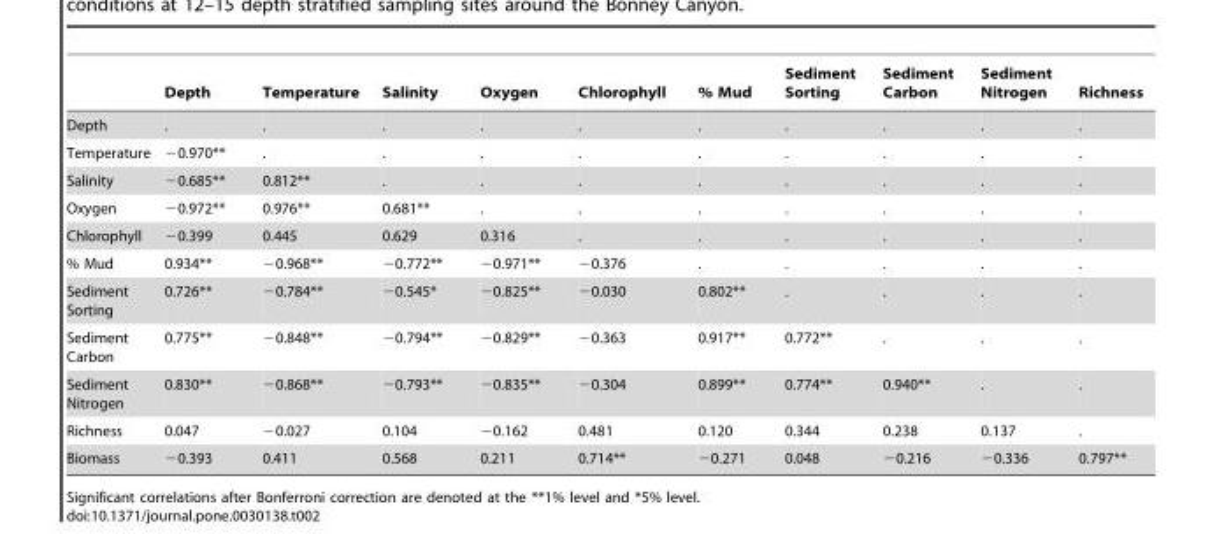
<table><thead><tr><td></td><td>Depth</td><td>Temperature</td><td>Salinity</td><td>Oxygen</td><td>Chlorophyll</td><td>% Mud</td><td>Sediment Sorting</td><td>Sediment Carbon</td><td>Sediment Nitrogen</td><td>Richness</td></tr></thead><tbody><tr><td>Depth</td><td>.</td><td>.</td><td>.</td><td>.</td><td>.</td><td>.</td><td>.</td><td>.</td><td>.</td><td>.</td></tr><tr><td>Temperature</td><td>−0.970**</td><td>.</td><td>.</td><td>.</td><td>.</td><td>.</td><td>.</td><td>.</td><td>.</td><td>.</td></tr><tr><td>Salinity</td><td>−0.685**</td><td>0.812**</td><td>.</td><td>.</td><td>.</td><td>.</td><td>.</td><td>.</td><td>.</td><td>.</td></tr><tr><td>Oxygen</td><td>−0.972**</td><td>0.976**</td><td>0.681**</td><td>.</td><td>.</td><td>.</td><td>.</td><td>.</td><td>.</td><td>.</td></tr><tr><td>Chlorophyll</td><td>−0.399</td><td>0.445</td><td>0.629</td><td>0.316</td><td>.</td><td>.</td><td>.</td><td>.</td><td>.</td><td>.</td></tr><tr><td>% Mud</td><td>0.934**</td><td>−0.968**</td><td>−0.772**</td><td>−0.971**</td><td>−0.376</td><td>.</td><td>.</td><td>.</td><td>.</td><td>.</td></tr><tr><td>Sediment Sorting</td><td>0.726**</td><td>−0.784**</td><td>−0.545*</td><td>−0.825**</td><td>−0.030</td><td>0.802**</td><td>.</td><td>.</td><td>.</td><td>.</td></tr><tr><td>Sediment Carbon</td><td>0.775**</td><td>−0.848**</td><td>−0.794**</td><td>−0.829**</td><td>−0.363</td><td>0.917**</td><td>0.772**</td><td>.</td><td>.</td><td>.</td></tr><tr><td>Sediment Nitrogen</td><td>0.830**</td><td>−0.868**</td><td>−0.793**</td><td>−0.835**</td><td>−0.304</td><td>0.899**</td><td>0.774**</td><td>0.940**</td><td>.</td><td>.</td></tr><tr><td>Richness</td><td>0.047</td><td>−0.027</td><td>0.104</td><td>−0.162</td><td>0.481</td><td>0.120</td><td>0.344</td><td>0.238</td><td>0.137</td><td>.</td></tr><tr><td>Biomass</td><td>−0.393</td><td>0.411</td><td>0.568</td><td>0.211</td><td>0.714**</td><td>−0.271</td><td>0.048</td><td>−0.216</td><td>−0.336</td><td>0.797**</td></tr></tbody></table>